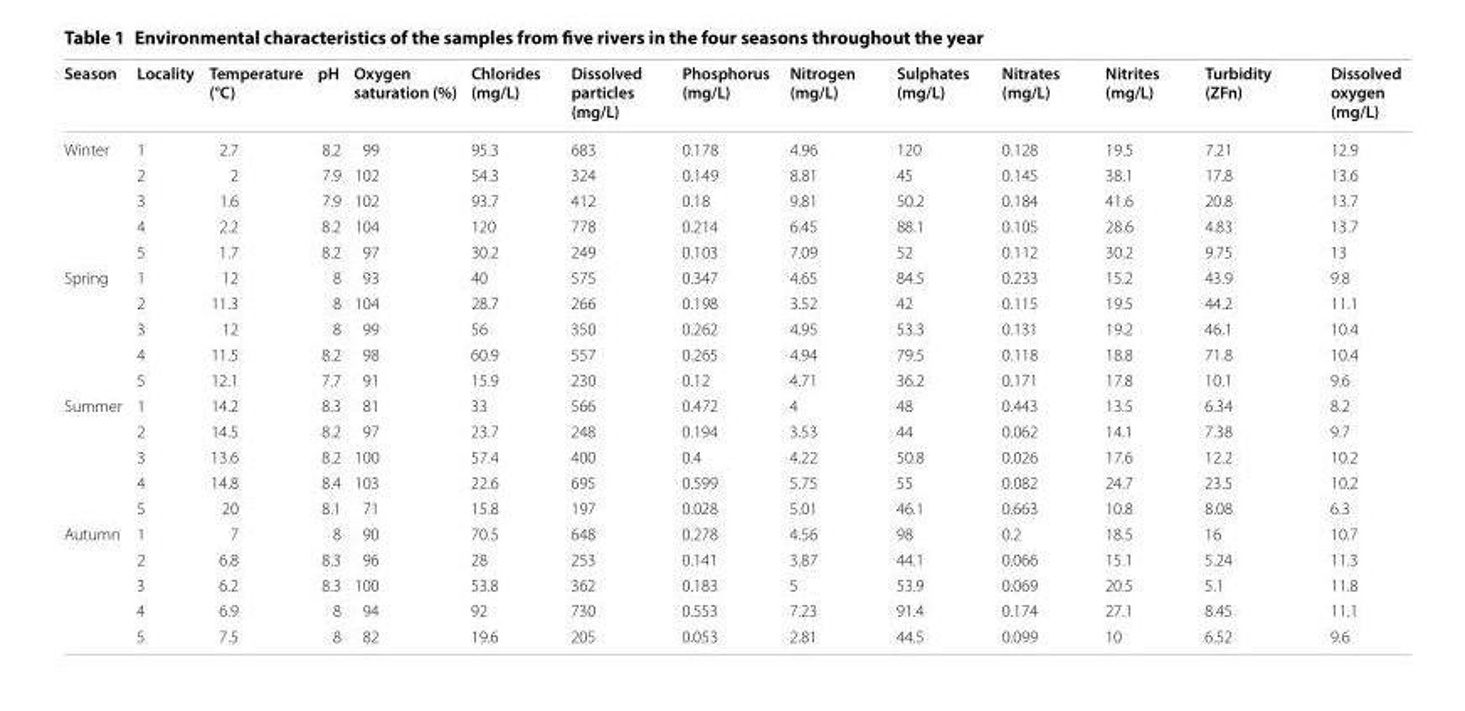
<table><thead><tr><td>Season</td><td>Locality</td><td>Temperature (°C)</td><td>pH</td><td>Oxygen saturation (%)</td><td>Chlorides (mg/L)</td><td>Dissolved particles (mg/L)</td><td>Phosphorus (mg/L)</td><td>Nitrogen (mg/L)</td><td>Sulphates (mg/L)</td><td>Nitrates (mg/L)</td><td>Nitrites (mg/L)</td><td>Turbidity (ZFn)</td><td>Dissolved oxygen (mg/L)</td></tr></thead><tbody><tr><td rowspan="5">Winter</td><td>1</td><td>2.7</td><td>8.2</td><td>99</td><td>95.3</td><td>683</td><td>0.178</td><td>4.96</td><td>120</td><td>0.128</td><td>19.5</td><td>7.21</td><td>12.9</td></tr><tr><td>2</td><td>2</td><td>7.9</td><td>102</td><td>54.3</td><td>324</td><td>0.149</td><td>8.81</td><td>45</td><td>0.145</td><td>38.1</td><td>17.8</td><td>13.6</td></tr><tr><td>3</td><td>1.6</td><td>7.9</td><td>102</td><td>93.7</td><td>412</td><td>0.18</td><td>9.81</td><td>50.2</td><td>0.184</td><td>41.6</td><td>20.8</td><td>13.7</td></tr><tr><td>4</td><td>2.2</td><td>8.2</td><td>104</td><td>120</td><td>778</td><td>0.214</td><td>6.45</td><td>88.1</td><td>0.105</td><td>28.6</td><td>4.83</td><td>13.7</td></tr><tr><td>5</td><td>1.7</td><td>8.2</td><td>97</td><td>30.2</td><td>249</td><td>0.103</td><td>7.09</td><td>52</td><td>0.112</td><td>30.2</td><td>9.75</td><td>13</td></tr><tr><td rowspan="5">Spring</td><td>1</td><td>12</td><td>8</td><td>93</td><td>40</td><td>575</td><td>0.347</td><td>4.65</td><td>84.5</td><td>0.233</td><td>15.2</td><td>43.9</td><td>9.8</td></tr><tr><td>2</td><td>11.3</td><td>8</td><td>104</td><td>28.7</td><td>266</td><td>0.198</td><td>3.52</td><td>42</td><td>0.115</td><td>19.5</td><td>44.2</td><td>11.1</td></tr><tr><td>3</td><td>12</td><td>8</td><td>99</td><td>56</td><td>350</td><td>0.262</td><td>4.95</td><td>53.3</td><td>0.131</td><td>19.2</td><td>46.1</td><td>10.4</td></tr><tr><td>4</td><td>11.5</td><td>8.2</td><td>98</td><td>60.9</td><td>557</td><td>0.265</td><td>4.94</td><td>79.5</td><td>0.118</td><td>18.8</td><td>71.8</td><td>10.4</td></tr><tr><td>5</td><td>12.1</td><td>7.7</td><td>91</td><td>15.9</td><td>230</td><td>0.12</td><td>4.71</td><td>36.2</td><td>0.171</td><td>17.8</td><td>10.1</td><td>9.6</td></tr><tr><td rowspan="5">Summer</td><td>1</td><td>14.2</td><td>8.3</td><td>81</td><td>33</td><td>566</td><td>0.472</td><td>4</td><td>48</td><td>0.443</td><td>13.5</td><td>6.34</td><td>8.2</td></tr><tr><td>2</td><td>14.5</td><td>8.2</td><td>97</td><td>23.7</td><td>248</td><td>0.194</td><td>3.53</td><td>44</td><td>0.062</td><td>14.1</td><td>7.38</td><td>9.7</td></tr><tr><td>3</td><td>13.6</td><td>8.2</td><td>100</td><td>57.4</td><td>400</td><td>0.4</td><td>4.22</td><td>50.8</td><td>0.026</td><td>17.6</td><td>12.2</td><td>10.2</td></tr><tr><td>4</td><td>14.8</td><td>8.4</td><td>103</td><td>22.6</td><td>695</td><td>0.599</td><td>5.75</td><td>55</td><td>0.082</td><td>24.7</td><td>23.5</td><td>10.2</td></tr><tr><td>5</td><td>20</td><td>8.1</td><td>71</td><td>15.8</td><td>197</td><td>0.028</td><td>5.01</td><td>46.1</td><td>0.663</td><td>10.8</td><td>8.08</td><td>6.3</td></tr><tr><td rowspan="5">Autumn</td><td>1</td><td>7</td><td>8</td><td>90</td><td>70.5</td><td>648</td><td>0.278</td><td>4.56</td><td>98</td><td>0.2</td><td>18.5</td><td>16</td><td>10.7</td></tr><tr><td>2</td><td>6.8</td><td>8.3</td><td>96</td><td>28</td><td>253</td><td>0.141</td><td>3.87</td><td>44.1</td><td>0.066</td><td>15.1</td><td>5.24</td><td>11.3</td></tr><tr><td>3</td><td>6.2</td><td>8.3</td><td>100</td><td>53.8</td><td>362</td><td>0.183</td><td>5</td><td>53.9</td><td>0.069</td><td>20.5</td><td>5.1</td><td>11.8</td></tr><tr><td>4</td><td>6.9</td><td>8</td><td>94</td><td>92</td><td>730</td><td>0.553</td><td>7.23</td><td>91.4</td><td>0.174</td><td>27.1</td><td>8.45</td><td>11.1</td></tr><tr><td>5</td><td>7.5</td><td>8</td><td>82</td><td>19.6</td><td>205</td><td>0.053</td><td>2.81</td><td>44.5</td><td>0.099</td><td>10</td><td>6.52</td><td>9.6</td></tr></tbody></table>